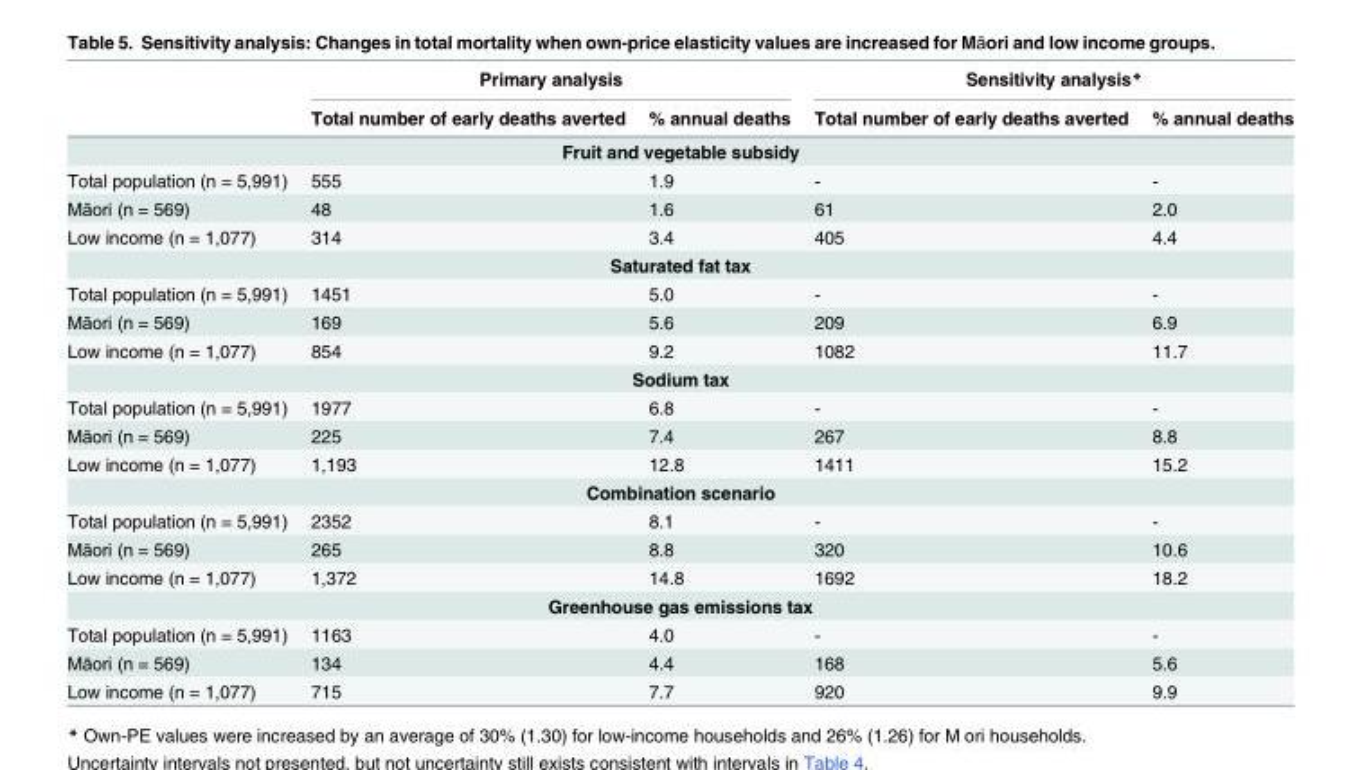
<table><thead><tr><td rowspan="2"></td><td colspan="2">Primary analysis</td><td colspan="2">Sensitivity analysis*</td></tr><tr><td>Total number of early deaths averted</td><td>% annual deaths</td><td>Total number of early deaths averted</td><td>% annual deaths</td></tr></thead><tbody><tr><td colspan="5">Fruit and vegetable subsidy</td></tr><tr><td>Total population (n = 5,991)</td><td>555</td><td>1.9</td><td>-</td><td>-</td></tr><tr><td>Māori (n = 569)</td><td>48</td><td>1.6</td><td>61</td><td>2.0</td></tr><tr><td>Low income (n = 1,077)</td><td>314</td><td>3.4</td><td>405</td><td>4.4</td></tr><tr><td colspan="5">Saturated fat tax</td></tr><tr><td>Total population (n = 5,991)</td><td>1451</td><td>5.0</td><td>-</td><td>-</td></tr><tr><td>Māori (n = 569)</td><td>169</td><td>5.6</td><td>209</td><td>6.9</td></tr><tr><td>Low income (n = 1,077)</td><td>854</td><td>9.2</td><td>1082</td><td>11.7</td></tr><tr><td colspan="5">Sodium tax</td></tr><tr><td>Total population (n = 5,991)</td><td>1977</td><td>6.8</td><td>-</td><td>-</td></tr><tr><td>Māori (n = 569)</td><td>225</td><td>7.4</td><td>267</td><td>8.8</td></tr><tr><td>Low income (n = 1,077)</td><td>1,193</td><td>12.8</td><td>1411</td><td>15.2</td></tr><tr><td colspan="5">Combination scenario</td></tr><tr><td>Total population (n = 5,991)</td><td>2352</td><td>8.1</td><td>-</td><td>-</td></tr><tr><td>Māori (n = 569)</td><td>265</td><td>8.8</td><td>320</td><td>10.6</td></tr><tr><td>Low income (n = 1,077)</td><td>1,372</td><td>14.8</td><td>1692</td><td>18.2</td></tr><tr><td colspan="5">Greenhouse gas emissions tax</td></tr><tr><td>Total population (n = 5,991)</td><td>1163</td><td>4.0</td><td>-</td><td>-</td></tr><tr><td>Māori (n = 569)</td><td>134</td><td>4.4</td><td>168</td><td>5.6</td></tr><tr><td>Low income (n = 1,077)</td><td>715</td><td>7.7</td><td>920</td><td>9.9</td></tr></tbody></table>